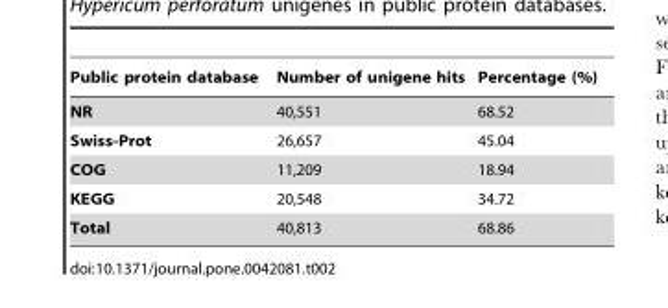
<table><thead><tr><td>Public protein database</td><td>Number of unigene hits</td><td>Percentage (%)</td></tr></thead><tbody><tr><td>NR</td><td>40,551</td><td>68.52</td></tr><tr><td>Swiss-Prot</td><td>26,657</td><td>45.04</td></tr><tr><td>COG</td><td>11,209</td><td>18.94</td></tr><tr><td>KEGG</td><td>20,548</td><td>34.72</td></tr><tr><td>Total</td><td>40,813</td><td>68.86</td></tr></tbody></table>